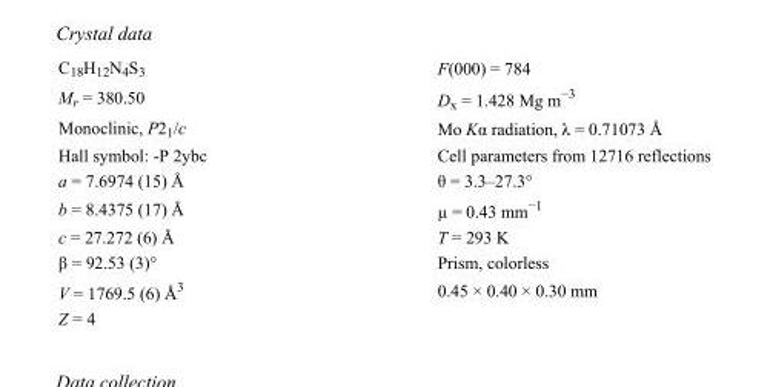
<table><tbody><tr><td>C<sub>18</sub>H<sub>12</sub>N<sub>4</sub>S<sub>3</sub></td><td>F(000) = 784</td></tr><tr><td>M<sub>r</sub> = 380.50</td><td>D<sub>x</sub> = 1.428 Mg m<sup>−3</sup></td></tr><tr><td>Monoclinic, P2<sub>1</sub>/c</td><td>Mo Kα radiation, λ = 0.71073 Å</td></tr><tr><td>Hall symbol: -P 2ybc</td><td>Cell parameters from 12716 reflections</td></tr><tr><td>a = 7.6974 (15) Å</td><td>θ = 3.3–27.3°</td></tr><tr><td>b = 8.4375 (17) Å</td><td>µ = 0.43 mm<sup>−1</sup></td></tr><tr><td>c = 27.272 (6) Å</td><td>T = 293 K</td></tr><tr><td>β = 92.53 (3)°</td><td>Prism, colorless</td></tr><tr><td>V = 1769.5 (6) Å<sup>3</sup></td><td>0.45 × 0.40 × 0.30 mm</td></tr><tr><td>Z = 4</td><td></td></tr></tbody></table>